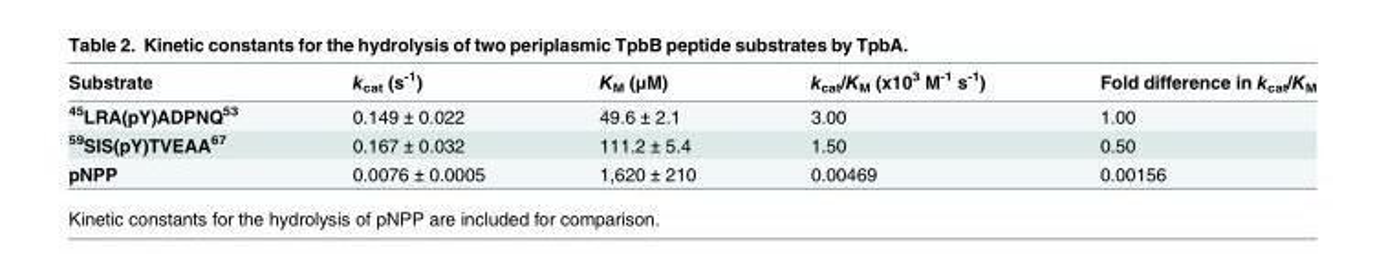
<table><thead><tr><td>Substrate</td><td>k<sub>cat</sub> (s<sup>-1</sup>)</td><td>K<sub>M</sub> (μM)</td><td>k<sub>cat</sub>/K<sub>M</sub> (x10<sup>3</sup> M<sup>-1</sup> s<sup>-1</sup>)</td><td>Fold difference in k<sub>cat</sub>/K<sub>M</sub></td></tr></thead><tbody><tr><td><sup>45</sup>LRA(pY)ADPNQ<sup>53</sup></td><td>0.149 ± 0.022</td><td>49.6 ± 2.1</td><td>3.00</td><td>1.00</td></tr><tr><td><sup>59</sup>SIS(pY)TVEAA<sup>67</sup></td><td>0.167 ± 0.032</td><td>111.2 ± 5.4</td><td>1.50</td><td>0.50</td></tr><tr><td>pNPP</td><td>0.0076 ± 0.0005</td><td>1,620 ± 210</td><td>0.00469</td><td>0.00156</td></tr></tbody></table>